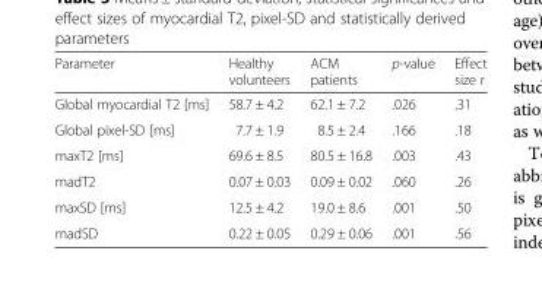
<table><thead><tr><td>Parameter</td><td>Healthy volunteers</td><td>ACM patients</td><td>p-value</td><td>Effect size r</td></tr></thead><tbody><tr><td>Global myocardial T2 [ms]</td><td>58.7 ± 4.2</td><td>62.1 ± 7.2</td><td>.026</td><td>.31</td></tr><tr><td>Global pixel-SD [ms]</td><td>7.7 ± 1.9</td><td>8.5 ± 2.4</td><td>.166</td><td>.18</td></tr><tr><td>maxT2 [ms]</td><td>69.6 ± 8.5</td><td>80.5 ± 16.8</td><td>.003</td><td>.43</td></tr><tr><td>madT2</td><td>0.07 ± 0.03</td><td>0.09 ± 0.02</td><td>.060</td><td>.26</td></tr><tr><td>maxSD [ms]</td><td>12.5 ± 4.2</td><td>19.0 ± 8.6</td><td>.001</td><td>.50</td></tr><tr><td>madSD</td><td>0.22 ± 0.05</td><td>0.29 ± 0.06</td><td>.001</td><td>.56</td></tr></tbody></table>